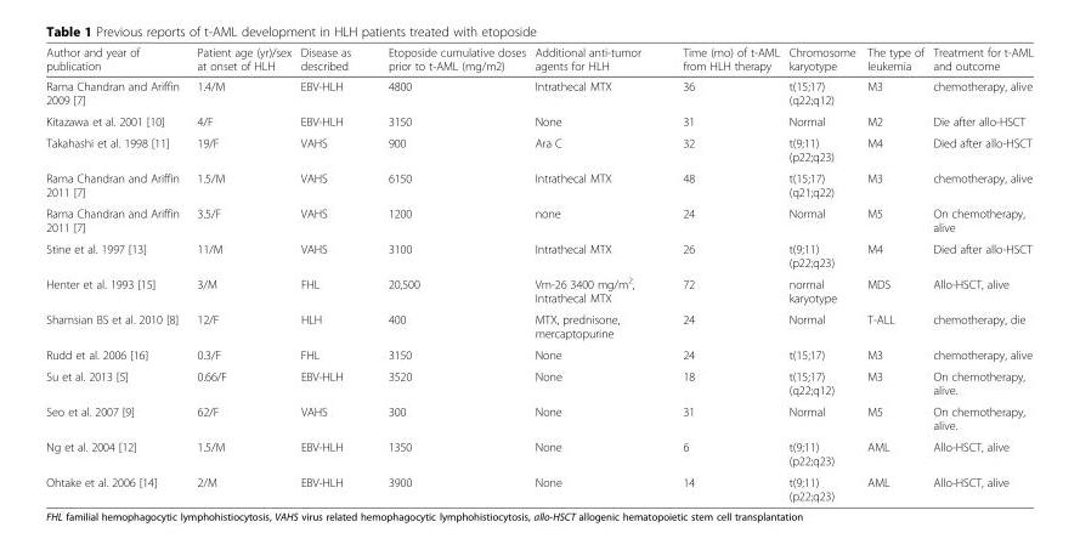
<table><thead><tr><td>Author and year of publication</td><td>Patient age (yr)/sex at onset of HLH</td><td>Disease as described</td><td>Etoposide cumulative doses prior to t-AML (mg/m2)</td><td>Additional anti-tumor agents for HLH</td><td>Time (mo) of t-AML from HLH therapy</td><td>Chromosome karyotype</td><td>The type of leukemia</td><td>Treatment for t-AML and outcome</td></tr></thead><tbody><tr><td>Rama Chandran and Ariffin 2009 [7]</td><td>1.4/M</td><td>EBV-HLH</td><td>4800</td><td>Intrathecal MTX</td><td>36</td><td>t(15;17) (q22;q12)</td><td>M3</td><td>chemotherapy, alive</td></tr><tr><td>Kitazawa et al. 2001 [10]</td><td>4/F</td><td>EBV-HLH</td><td>3150</td><td>None</td><td>31</td><td>Normal</td><td>M2</td><td>Die after allo-HSCT</td></tr><tr><td>Takahashi et al. 1998 [11]</td><td>19/F</td><td>VAHS</td><td>900</td><td>Ara C</td><td>32</td><td>t(9;11) (p22;q23)</td><td>M4</td><td>Died after allo-HSCT</td></tr><tr><td>Rama Chandran and Ariffin 2011 [7]</td><td>1.5/M</td><td>VAHS</td><td>6150</td><td>Intrathecal MTX</td><td>48</td><td>t(15;17) (q21;q22)</td><td>M3</td><td>chemotherapy, alive</td></tr><tr><td>Rama Chandran and Ariffin 2011 [7]</td><td>3.5/F</td><td>VAHS</td><td>1200</td><td>none</td><td>24</td><td>Normal</td><td>M5</td><td>On chemotherapy, alive</td></tr><tr><td>Stine et al. 1997 [13]</td><td>11/M</td><td>VAHS</td><td>3100</td><td>Intrathecal MTX</td><td>26</td><td>t(9;11) (p22;q23)</td><td>M4</td><td>Died after allo-HSCT</td></tr><tr><td>Henter et al. 1993 [15]</td><td>3/M</td><td>FHL</td><td>20,500</td><td>Vm-26 3400 mg/m<sup>2</sup>, Intrathecal MTX</td><td>72</td><td>normal karyotype</td><td>MDS</td><td>Allo-HSCT, alive</td></tr><tr><td>Shamsian BS et al. 2010 [8]</td><td>12/F</td><td>HLH</td><td>400</td><td>MTX, prednisone, mercaptopurine</td><td>24</td><td>Normal</td><td>T-ALL</td><td>chemotherapy, die</td></tr><tr><td>Rudd et al. 2006 [16]</td><td>0.3/F</td><td>FHL</td><td>3150</td><td>None</td><td>24</td><td>t(15;17)</td><td>M3</td><td>chemotherapy, alive</td></tr><tr><td>Su et al. 2013 [5]</td><td>0.66/F</td><td>EBV-HLH</td><td>3520</td><td>None</td><td>18</td><td>t(15;17) (q22;q12)</td><td>M3</td><td>On chemotherapy, alive.</td></tr><tr><td>Seo et al. 2007 [9]</td><td>62/F</td><td>VAHS</td><td>300</td><td>None</td><td>31</td><td>Normal</td><td>M5</td><td>On chemotherapy, alive.</td></tr><tr><td>Ng et al. 2004 [12]</td><td>1.5/M</td><td>EBV-HLH</td><td>1350</td><td>None</td><td>6</td><td>t(9;11) (p22;q23)</td><td>AML</td><td>Allo-HSCT, alive</td></tr><tr><td>Ohtake et al. 2006 [14]</td><td>2/M</td><td>EBV-HLH</td><td>3900</td><td>None</td><td>14</td><td>t(9;11) (p22;q23)</td><td>AML</td><td>Allo-HSCT, alive</td></tr></tbody></table>